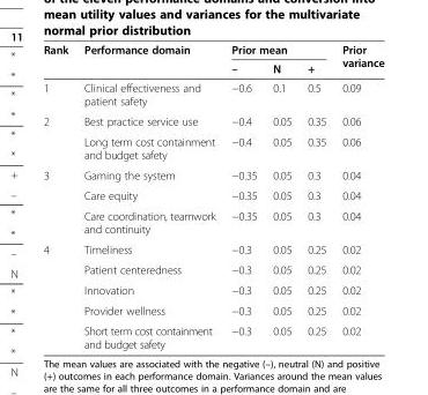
<table><thead><tr><td rowspan="2">Rank</td><td rowspan="2">Performance domain</td><td colspan="3">Prior mean</td><td rowspan="2">Prior variance</td></tr><tr><td>–</td><td>N</td><td>+</td></tr></thead><tbody><tr><td>1</td><td>Clinical effectiveness and patient safety</td><td>−0.6</td><td>0.1</td><td>0.5</td><td>0.09</td></tr><tr><td rowspan="2">2</td><td>Best practice service use</td><td>−0.4</td><td>0.05</td><td>0.35</td><td>0.06</td></tr><tr><td>Long term cost containment and budget safety</td><td>−0.4</td><td>0.05</td><td>0.35</td><td>0.06</td></tr><tr><td rowspan="3">3</td><td>Gaming the system</td><td>−0.35</td><td>0.05</td><td>0.3</td><td>0.04</td></tr><tr><td>Care equity</td><td>−0.35</td><td>0.05</td><td>0.3</td><td>0.04</td></tr><tr><td>Care coordination, teamwork and continuity</td><td>−0.35</td><td>0.05</td><td>0.3</td><td>0.04</td></tr><tr><td rowspan="5">4</td><td>Timeliness</td><td>−0.3</td><td>0.05</td><td>0.25</td><td>0.02</td></tr><tr><td>Patient centeredness</td><td>−0.3</td><td>0.05</td><td>0.25</td><td>0.02</td></tr><tr><td>Innovation</td><td>−0.3</td><td>0.05</td><td>0.25</td><td>0.02</td></tr><tr><td>Provider wellness</td><td>−0.3</td><td>0.05</td><td>0.25</td><td>0.02</td></tr><tr><td>Short term cost containment and budget safety</td><td>−0.3</td><td>0.05</td><td>0.25</td><td>0.02</td></tr></tbody></table>